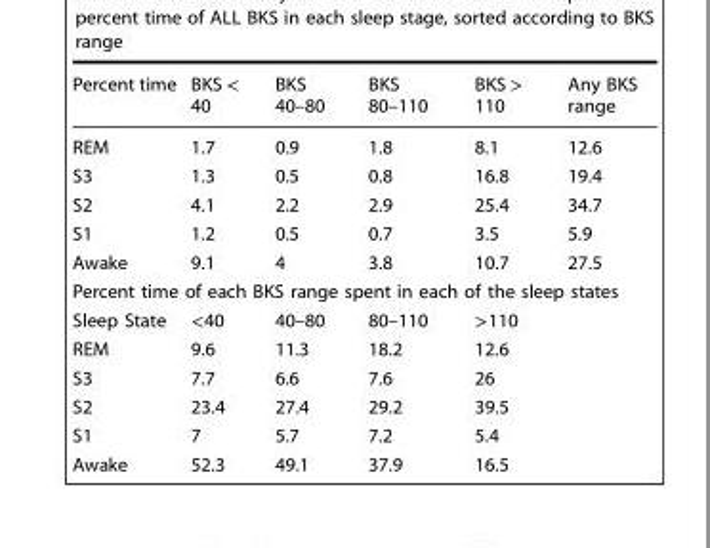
<table><thead><tr><td>Percent time</td><td>BKS &lt; 40</td><td>BKS 40–80</td><td>BKS 80–110</td><td>BKS &gt; 110</td><td>Any BKS range</td></tr></thead><tbody><tr><td>REM</td><td>1.7</td><td>0.9</td><td>1.8</td><td>8.1</td><td>12.6</td></tr><tr><td>S3</td><td>1.3</td><td>0.5</td><td>0.8</td><td>16.8</td><td>19.4</td></tr><tr><td>S2</td><td>4.1</td><td>2.2</td><td>2.9</td><td>25.4</td><td>34.7</td></tr><tr><td>S1</td><td>1.2</td><td>0.5</td><td>0.7</td><td>3.5</td><td>5.9</td></tr><tr><td>Awake</td><td>9.1</td><td>4</td><td>3.8</td><td>10.7</td><td>27.5</td></tr><tr><td colspan="6">Percent time of each BKS range spent in each of the sleep states</td></tr><tr><td>Sleep State</td><td>&lt;40</td><td>40–80</td><td>80–110</td><td>&gt;110</td><td></td></tr><tr><td>REM</td><td>9.6</td><td>11.3</td><td>18.2</td><td>12.6</td><td></td></tr><tr><td>S3</td><td>7.7</td><td>6.6</td><td>7.6</td><td>26</td><td></td></tr><tr><td>S2</td><td>23.4</td><td>27.4</td><td>29.2</td><td>39.5</td><td></td></tr><tr><td>S1</td><td>7</td><td>5.7</td><td>7.2</td><td>5.4</td><td></td></tr><tr><td>Awake</td><td>52.3</td><td>49.1</td><td>37.9</td><td>16.5</td><td></td></tr></tbody></table>